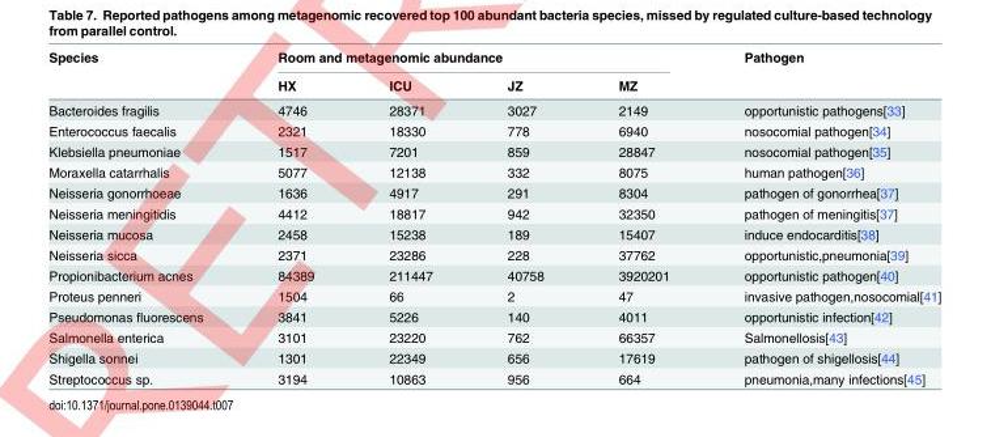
<table><thead><tr><td rowspan="2">Species</td><td colspan="4">Room and metagenomic abundance</td><td rowspan="2">Pathogen</td></tr><tr><td>HX</td><td>ICU</td><td>JZ</td><td>MZ</td></tr></thead><tbody><tr><td>Bacteroides fragilis</td><td>4746</td><td>28371</td><td>3027</td><td>2149</td><td>opportunistic pathogens[33]</td></tr><tr><td>Enterococcus faecalis</td><td>2321</td><td>18330</td><td>778</td><td>6940</td><td>nosocomial pathogen[34]</td></tr><tr><td>Klebsiella pneumoniae</td><td>1517</td><td>7201</td><td>859</td><td>28847</td><td>nosocomial pathogen[35]</td></tr><tr><td>Moraxella catarrhalis</td><td>5077</td><td>12138</td><td>332</td><td>8075</td><td>human pathogen[36]</td></tr><tr><td>Neisseria gonorrhoeae</td><td>1636</td><td>4917</td><td>291</td><td>8304</td><td>pathogen of gonorrhea[37]</td></tr><tr><td>Neisseria meningitidis</td><td>4412</td><td>18817</td><td>942</td><td>32350</td><td>pathogen of meningitis[37]</td></tr><tr><td>Neisseria mucosa</td><td>2458</td><td>15238</td><td>189</td><td>15407</td><td>induce endocarditis[38]</td></tr><tr><td>Neisseria sicca</td><td>2371</td><td>23286</td><td>228</td><td>37762</td><td>opportunistic,pneumonia[39]</td></tr><tr><td>Propionibacterium acnes</td><td>84389</td><td>211447</td><td>40758</td><td>3920201</td><td>opportunistic pathogen[40]</td></tr><tr><td>Proteus penneri</td><td>1504</td><td>66</td><td>2</td><td>47</td><td>invasive pathogen,nosocomial[41]</td></tr><tr><td>Pseudomonas fluorescens</td><td>3841</td><td>5226</td><td>140</td><td>4011</td><td>opportunistic infection[42]</td></tr><tr><td>Salmonella enterica</td><td>3101</td><td>23220</td><td>762</td><td>66357</td><td>Salmonellosis[43]</td></tr><tr><td>Shigella sonnei</td><td>1301</td><td>22349</td><td>656</td><td>17619</td><td>pathogen of shigellosis[44]</td></tr><tr><td>Streptococcus sp.</td><td>3194</td><td>10863</td><td>956</td><td>664</td><td>pneumonia,many infections[45]</td></tr></tbody></table>